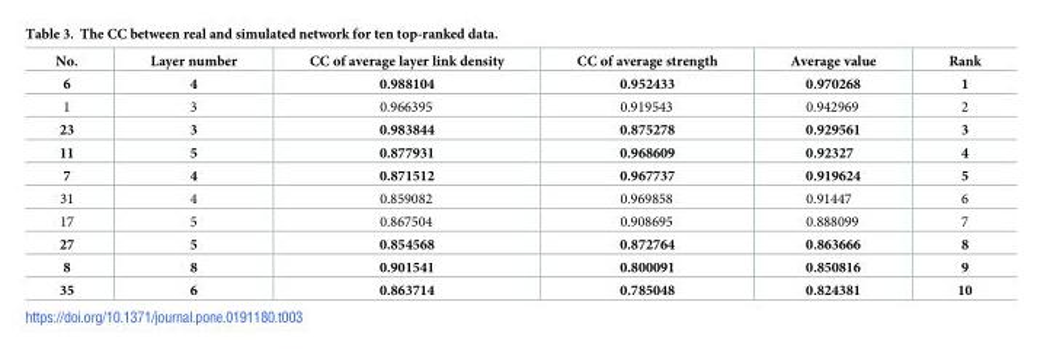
<table><thead><tr><td>No.</td><td>Layer number</td><td>CC of average layer link density</td><td>CC of average strength</td><td>Average value</td><td>Rank</td></tr></thead><tbody><tr><td>6</td><td>4</td><td>0.988104</td><td>0.952433</td><td>0.970268</td><td>1</td></tr><tr><td>1</td><td>3</td><td>0.966395</td><td>0.919543</td><td>0.942969</td><td>2</td></tr><tr><td>23</td><td>3</td><td>0.983844</td><td>0.875278</td><td>0.929561</td><td>3</td></tr><tr><td>11</td><td>5</td><td>0.877931</td><td>0.968609</td><td>0.92327</td><td>4</td></tr><tr><td>7</td><td>4</td><td>0.871512</td><td>0.967737</td><td>0.919624</td><td>5</td></tr><tr><td>31</td><td>4</td><td>0.859082</td><td>0.969858</td><td>0.91447</td><td>6</td></tr><tr><td>17</td><td>5</td><td>0.867504</td><td>0.908695</td><td>0.888099</td><td>7</td></tr><tr><td>27</td><td>5</td><td>0.854568</td><td>0.872764</td><td>0.863666</td><td>8</td></tr><tr><td>8</td><td>8</td><td>0.901541</td><td>0.800091</td><td>0.850816</td><td>9</td></tr><tr><td>35</td><td>6</td><td>0.863714</td><td>0.785048</td><td>0.824381</td><td>10</td></tr></tbody></table>